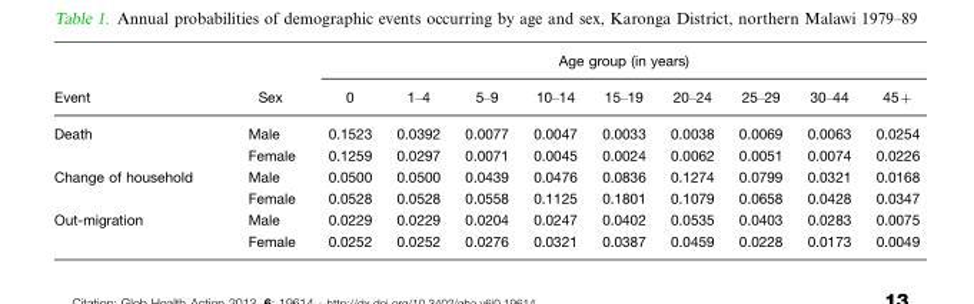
<table><thead><tr><td rowspan="2">Event</td><td rowspan="2">Sex</td><td colspan="9">Age group (in years)</td></tr><tr><td>0</td><td>1–4</td><td>5–9</td><td>10–14</td><td>15–19</td><td>20–24</td><td>25–29</td><td>30–44</td><td>45+</td></tr></thead><tbody><tr><td rowspan="2">Death</td><td>Male</td><td>0.1523</td><td>0.0392</td><td>0.0077</td><td>0.0047</td><td>0.0033</td><td>0.0038</td><td>0.0069</td><td>0.0063</td><td>0.0254</td></tr><tr><td>Female</td><td>0.1259</td><td>0.0297</td><td>0.0071</td><td>0.0045</td><td>0.0024</td><td>0.0062</td><td>0.0051</td><td>0.0074</td><td>0.0226</td></tr><tr><td rowspan="2">Change of household</td><td>Male</td><td>0.0500</td><td>0.0500</td><td>0.0439</td><td>0.0476</td><td>0.0836</td><td>0.1274</td><td>0.0799</td><td>0.0321</td><td>0.0168</td></tr><tr><td>Female</td><td>0.0528</td><td>0.0528</td><td>0.0558</td><td>0.1125</td><td>0.1801</td><td>0.1079</td><td>0.0658</td><td>0.0428</td><td>0.0347</td></tr><tr><td rowspan="2">Out-migration</td><td>Male</td><td>0.0229</td><td>0.0229</td><td>0.0204</td><td>0.0247</td><td>0.0402</td><td>0.0535</td><td>0.0403</td><td>0.0283</td><td>0.0075</td></tr><tr><td>Female</td><td>0.0252</td><td>0.0252</td><td>0.0276</td><td>0.0321</td><td>0.0387</td><td>0.0459</td><td>0.0228</td><td>0.0173</td><td>0.0049</td></tr></tbody></table>